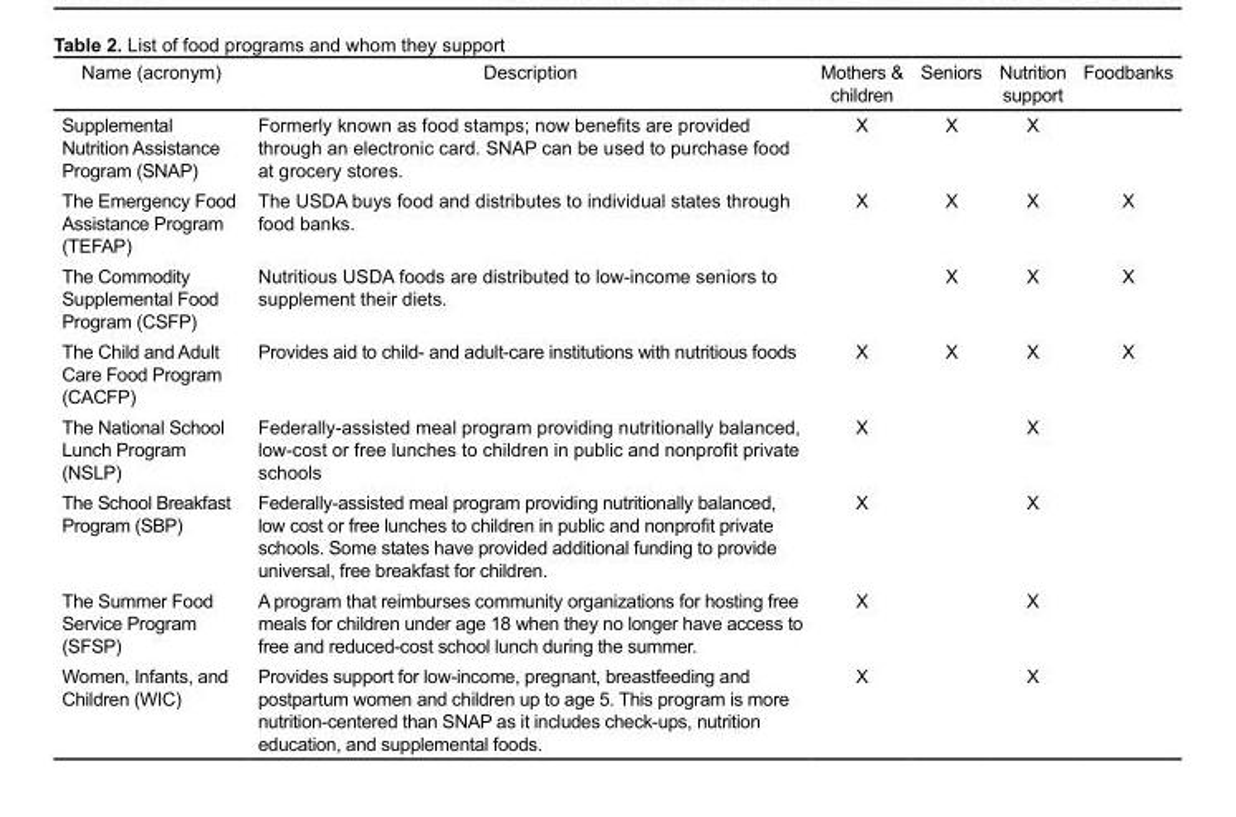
<table><thead><tr><td>Name (acronym)</td><td>Description</td><td>Mothers &amp; children</td><td>Seniors</td><td>Nutrition support</td><td>Foodbanks</td></tr></thead><tbody><tr><td>Supplemental Nutrition Assistance Program (SNAP)</td><td>Formerly known as food stamps; now benefits are provided through an electronic card. SNAP can be used to purchase food at grocery stores.</td><td>X</td><td>X</td><td>X</td><td></td></tr><tr><td>The Emergency Food Assistance Program (TEFAP)</td><td>The USDA buys food and distributes to individual states through food banks.</td><td>X</td><td>X</td><td>X</td><td>X</td></tr><tr><td>The Commodity Supplemental Food Program (CSFP)</td><td>Nutritious USDA foods are distributed to low-income seniors to supplement their diets.</td><td></td><td>X</td><td>X</td><td>X</td></tr><tr><td>The Child and Adult Care Food Program (CACFP)</td><td>Provides aid to child- and adult-care institutions with nutritious foods</td><td>X</td><td>X</td><td>X</td><td>X</td></tr><tr><td>The National School Lunch Program (NSLP)</td><td>Federally-assisted meal program providing nutritionally balanced, low-cost or free lunches to children in public and nonprofit private schools</td><td>X</td><td></td><td>X</td><td></td></tr><tr><td>The School Breakfast Program (SBP)</td><td>Federally-assisted meal program providing nutritionally balanced, low cost or free lunches to children in public and nonprofit private schools. Some states have provided additional funding to provide universal, free breakfast for children.</td><td>X</td><td></td><td>X</td><td></td></tr><tr><td>The Summer Food Service Program (SFSP)</td><td>A program that reimburses community organizations for hosting free meals for children under age 18 when they no longer have access to free and reduced-cost school lunch during the summer.</td><td>X</td><td></td><td>X</td><td></td></tr><tr><td>Women, Infants, and Children (WIC)</td><td>Provides support for low-income, pregnant, breastfeeding and postpartum women and children up to age 5. This program is more nutrition-centered than SNAP as it includes check-ups, nutrition education, and supplemental foods.</td><td>X</td><td></td><td>X</td><td></td></tr></tbody></table>